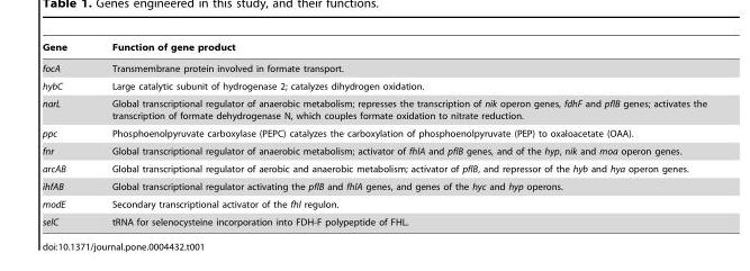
<table><thead><tr><td>Gene</td><td>Function of gene product</td></tr></thead><tbody><tr><td>focA</td><td>Transmembrane protein involved in formate transport.</td></tr><tr><td>hybC</td><td>Large catalytic subunit of hydrogenase 2; catalyzes dihydrogen oxidation.</td></tr><tr><td>narL</td><td>Global transcriptional regulator of anaerobic metabolism; represses the transcription of nik operon genes, fdhF and pflB genes; activates the transcription of formate dehydrogenase N, which couples formate oxidation to nitrate reduction.</td></tr><tr><td>ppc</td><td>Phosphoenolpyruvate carboxylase (PEPC) catalyzes the carboxylation of phosphoenolpyruvate (PEP) to oxaloacetate (OAA).</td></tr><tr><td>fnr</td><td>Global transcriptional regulator of anaerobic metabolism; activator of fhlA and pflB genes, and of the hyp, nik and moa operon genes.</td></tr><tr><td>arcAB</td><td>Global transcriptional regulator of aerobic and anaerobic metabolism; activator of pflB, and repressor of the hyb and hya operon genes.</td></tr><tr><td>ihfAB</td><td>Global transcriptional regulator activating the pflB and fhlA genes, and genes of the hyc and hyp operons.</td></tr><tr><td>modE</td><td>Secondary transcriptional activator of the fhl regulon.</td></tr><tr><td>selC</td><td>tRNA for selenocysteine incorporation into FDH-F polypeptide of FHL.</td></tr></tbody></table>